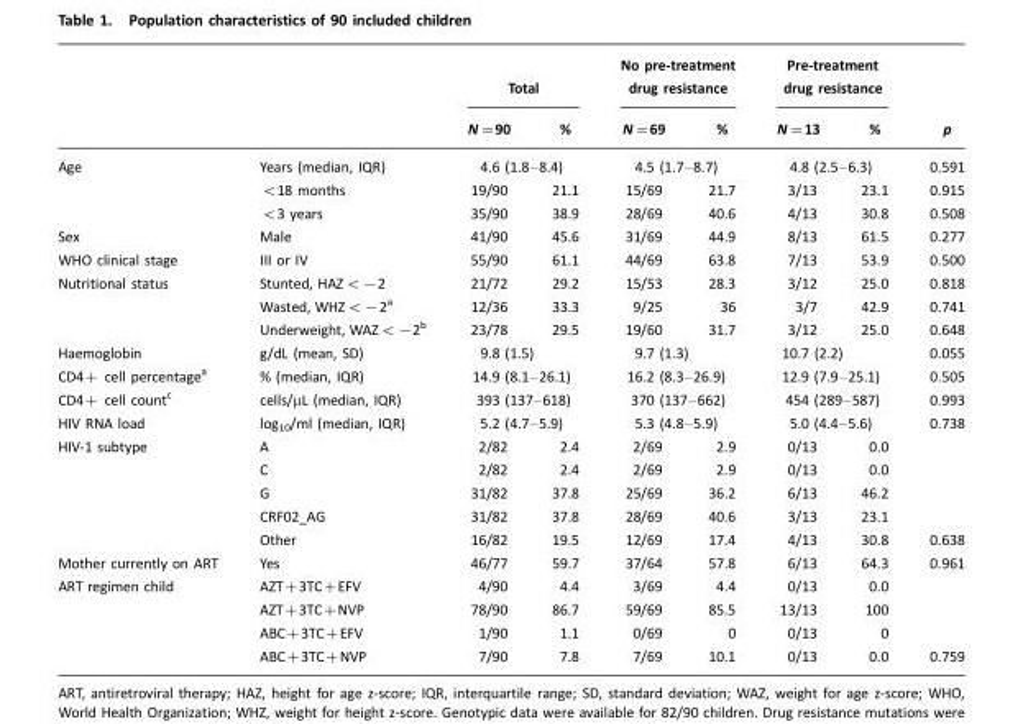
<table><thead><tr><td rowspan="2"></td><td rowspan="2"></td><td colspan="2">Total</td><td colspan="2">No pre-treatment drug resistance</td><td colspan="2">Pre-treatment drug resistance</td><td rowspan="2">p</td></tr><tr><td>N=90</td><td>%</td><td>N=69</td><td>%</td><td>N=13</td><td>%</td></tr></thead><tbody><tr><td rowspan="3">Age</td><td>Years (median, IQR)</td><td colspan="2">4.6 (1.8–8.4)</td><td colspan="2">4.5 (1.7–8.7)</td><td colspan="2">4.8 (2.5–6.3)</td><td>0.591</td></tr><tr><td>&lt;18 months</td><td>19/90</td><td>21.1</td><td>15/69</td><td>21.7</td><td>3/13</td><td>23.1</td><td>0.915</td></tr><tr><td>&lt;3 years</td><td>35/90</td><td>38.9</td><td>28/69</td><td>40.6</td><td>4/13</td><td>30.8</td><td>0.508</td></tr><tr><td>Sex</td><td>Male</td><td>41/90</td><td>45.6</td><td>31/69</td><td>44.9</td><td>8/13</td><td>61.5</td><td>0.277</td></tr><tr><td>WHO clinical stage</td><td>III or IV</td><td>55/90</td><td>61.1</td><td>44/69</td><td>63.8</td><td>7/13</td><td>53.9</td><td>0.500</td></tr><tr><td rowspan="3">Nutritional status</td><td>Stunted, HAZ&lt;−2</td><td>21/72</td><td>29.2</td><td>15/53</td><td>28.3</td><td>3/12</td><td>25.0</td><td>0.818</td></tr><tr><td>Wasted, WHZ&lt;−2<sup>a</sup></td><td>12/36</td><td>33.3</td><td>9/25</td><td>36</td><td>3/7</td><td>42.9</td><td>0.741</td></tr><tr><td>Underweight, WAZ&lt;−2<sup>b</sup></td><td>23/78</td><td>29.5</td><td>19/60</td><td>31.7</td><td>3/12</td><td>25.0</td><td>0.648</td></tr><tr><td>Haemoglobin</td><td>g/dL (mean, SD)</td><td colspan="2">9.8 (1.5)</td><td colspan="2">9.7 (1.3)</td><td colspan="2">10.7 (2.2)</td><td>0.055</td></tr><tr><td>CD4+ cell percentage<sup>a</sup></td><td>% (median, IQR)</td><td colspan="2">14.9 (8.1–26.1)</td><td colspan="2">16.2 (8.3–26.9)</td><td colspan="2">12.9 (7.9–25.1)</td><td>0.505</td></tr><tr><td>CD4+ cell count<sup>c</sup></td><td>cells/µL (median, IQR)</td><td colspan="2">393 (137–618)</td><td colspan="2">370 (137–662)</td><td colspan="2">454 (289–587)</td><td>0.993</td></tr><tr><td>HIV RNA load</td><td>log<sub>10</sub>/ml (median, IQR)</td><td colspan="2">5.2 (4.7–5.9)</td><td colspan="2">5.3 (4.8–5.9)</td><td colspan="2">5.0 (4.4–5.6)</td><td>0.738</td></tr><tr><td rowspan="5">HIV-1 subtype</td><td>A</td><td>2/82</td><td>2.4</td><td>2/69</td><td>2.9</td><td>0/13</td><td>0.0</td><td></td></tr><tr><td>C</td><td>2/82</td><td>2.4</td><td>2/69</td><td>2.9</td><td>0/13</td><td>0.0</td><td></td></tr><tr><td>G</td><td>31/82</td><td>37.8</td><td>25/69</td><td>36.2</td><td>6/13</td><td>46.2</td><td></td></tr><tr><td>CRF02_AG</td><td>31/82</td><td>37.8</td><td>28/69</td><td>40.6</td><td>3/13</td><td>23.1</td><td></td></tr><tr><td>Other</td><td>16/82</td><td>19.5</td><td>12/69</td><td>17.4</td><td>4/13</td><td>30.8</td><td>0.638</td></tr><tr><td>Mother currently on ART</td><td>Yes</td><td>46/77</td><td>59.7</td><td>37/64</td><td>57.8</td><td>6/13</td><td>64.3</td><td>0.961</td></tr><tr><td rowspan="4">ART regimen child</td><td>AZT+3TC+EFV</td><td>4/90</td><td>4.4</td><td>3/69</td><td>4.4</td><td>0/13</td><td>0.0</td><td></td></tr><tr><td>AZT+3TC+NVP</td><td>78/90</td><td>86.7</td><td>59/69</td><td>85.5</td><td>13/13</td><td>100</td><td></td></tr><tr><td>ABC+3TC+EFV</td><td>1/90</td><td>1.1</td><td>0/69</td><td>0</td><td>0/13</td><td>0</td><td></td></tr><tr><td>ABC+3TC+NVP</td><td>7/90</td><td>7.8</td><td>7/69</td><td>10.1</td><td>0/13</td><td>0.0</td><td>0.759</td></tr></tbody></table>